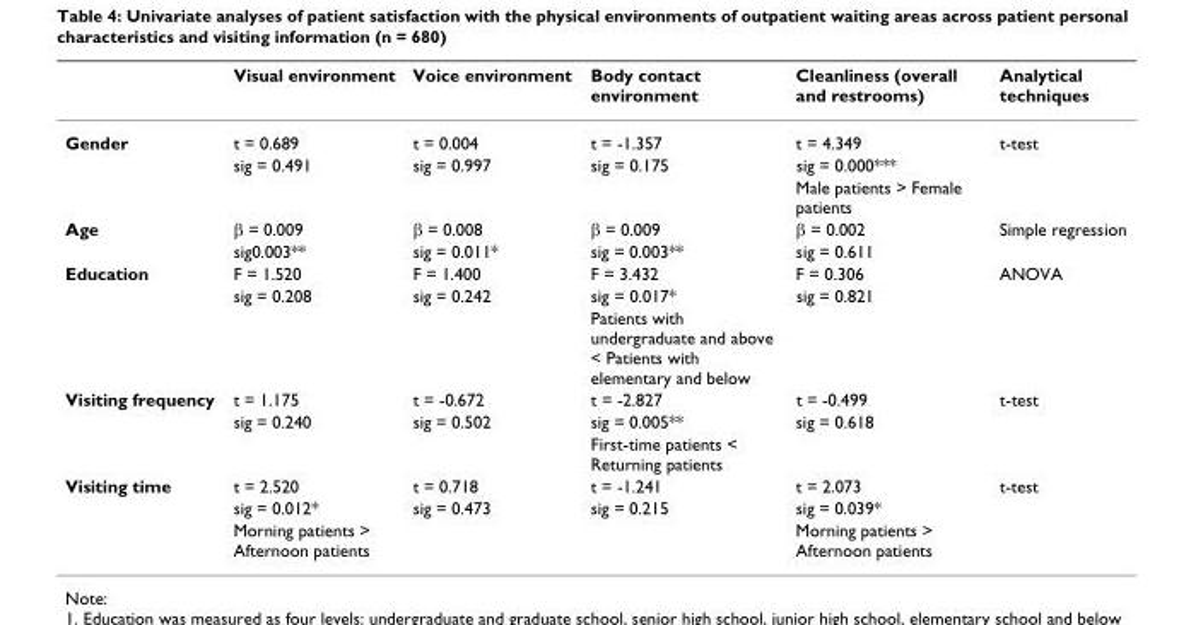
<table><thead><tr><td></td><td>Visual environment</td><td>Voice environment</td><td>Body contact environment</td><td>Cleanliness (overall and restrooms)</td><td>Analytical techniques</td></tr></thead><tbody><tr><td rowspan="3">Gender</td><td>t = 0.689</td><td>t = 0.004</td><td>t = -1.357</td><td>t = 4.349</td><td>t-test</td></tr><tr><td>sig = 0.491</td><td>sig = 0.997</td><td>sig = 0.175</td><td>sig = 0.000***</td><td></td></tr><tr><td></td><td></td><td></td><td>Male patients &gt; Female patients</td><td></td></tr><tr><td rowspan="2">Age</td><td>β = 0.009</td><td>β = 0.008</td><td>β = 0.009</td><td>β = 0.002</td><td>Simple regression</td></tr><tr><td>sig0.003**</td><td>sig = 0.011*</td><td>sig = 0.003**</td><td>sig = 0.611</td><td></td></tr><tr><td rowspan="3">Education</td><td>F = 1.520</td><td>F = 1.400</td><td>F = 3.432</td><td>F = 0.306</td><td>ANOVA</td></tr><tr><td>sig = 0.208</td><td>sig = 0.242</td><td>sig = 0.017*</td><td>sig = 0.821</td><td></td></tr><tr><td></td><td></td><td>Patients with undergraduate and above &lt; Patients with elementary and below</td><td></td><td></td></tr><tr><td rowspan="3">Visiting frequency</td><td>t = 1.175</td><td>t = -0.672</td><td>t = -2.827</td><td>t = -0.499</td><td>t-test</td></tr><tr><td>sig = 0.240</td><td>sig = 0.502</td><td>sig = 0.005**</td><td>sig = 0.618</td><td></td></tr><tr><td></td><td></td><td>First-time patients &lt; Returning patients</td><td></td><td></td></tr><tr><td rowspan="3">Visiting time</td><td>t = 2.520</td><td>t = 0.718</td><td>t = -1.241</td><td>t = 2.073</td><td>t-test</td></tr><tr><td>sig = 0.012*</td><td>sig = 0.473</td><td>sig = 0.215</td><td>sig = 0.039*</td><td></td></tr><tr><td>Morning patients &gt; Afternoon patients</td><td></td><td></td><td>Morning patients &gt; Afternoon patients</td><td></td></tr></tbody></table>